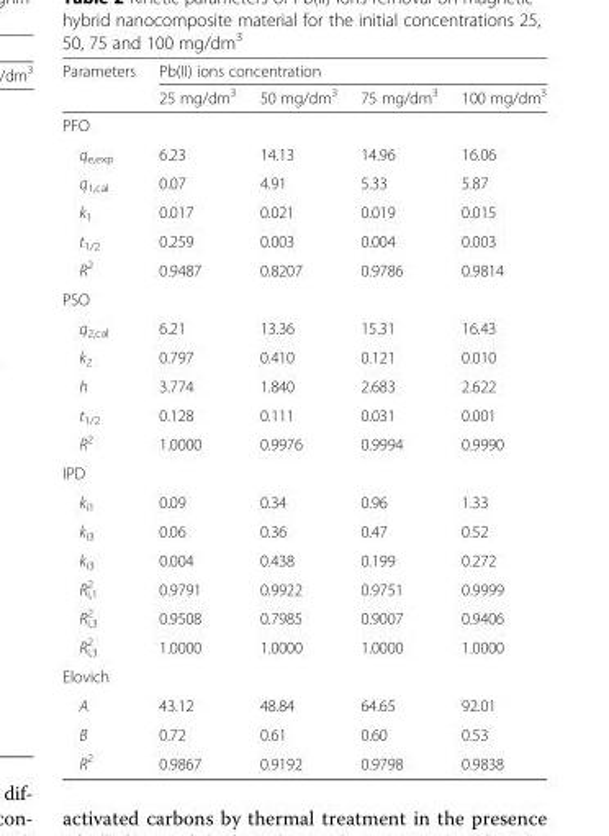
<table><thead><tr><td rowspan="2">Parameters</td><td colspan="4">Pb(II) ions concentration</td></tr><tr><td>25 mg/dm<sup>3</sup></td><td>50 mg/dm<sup>3</sup></td><td>75 mg/dm<sup>3</sup></td><td>100 mg/dm<sup>3</sup></td></tr></thead><tbody><tr><td colspan="5">PFO</td></tr><tr><td>q<sub>e,exp</sub></td><td>6.23</td><td>14.13</td><td>14.96</td><td>16.06</td></tr><tr><td>q<sub>1,cal</sub></td><td>0.07</td><td>4.91</td><td>5.33</td><td>5.87</td></tr><tr><td>k<sub>1</sub></td><td>0.017</td><td>0.021</td><td>0.019</td><td>0.015</td></tr><tr><td>t<sub>1/2</sub></td><td>0.259</td><td>0.003</td><td>0.004</td><td>0.003</td></tr><tr><td>R<sup>2</sup></td><td>0.9487</td><td>0.8207</td><td>0.9786</td><td>0.9814</td></tr><tr><td colspan="5">PSO</td></tr><tr><td>q<sub>2,cal</sub></td><td>6.21</td><td>13.36</td><td>15.31</td><td>16.43</td></tr><tr><td>k<sub>2</sub></td><td>0.797</td><td>0.410</td><td>0.121</td><td>0.010</td></tr><tr><td>h</td><td>3.774</td><td>1.840</td><td>2.683</td><td>2.622</td></tr><tr><td>t<sub>1/2</sub></td><td>0.128</td><td>0.111</td><td>0.031</td><td>0.001</td></tr><tr><td>R<sup>2</sup></td><td>1.0000</td><td>0.9976</td><td>0.9994</td><td>0.9990</td></tr><tr><td colspan="5">IPD</td></tr><tr><td>k<sub>i1</sub></td><td>0.09</td><td>0.34</td><td>0.96</td><td>1.33</td></tr><tr><td>k<sub>i3</sub></td><td>0.06</td><td>0.36</td><td>0.47</td><td>0.52</td></tr><tr><td>k<sub>i3</sub></td><td>0.004</td><td>0.438</td><td>0.199</td><td>0.272</td></tr><tr><td>R<sub>i,1</sub> <sup>2</sup></td><td>0.9791</td><td>0.9922</td><td>0.9751</td><td>0.9999</td></tr><tr><td>R<sub>i,3</sub> <sup>2</sup></td><td>0.9508</td><td>0.7985</td><td>0.9007</td><td>0.9406</td></tr><tr><td>R<sub>i,3</sub> <sup>2</sup></td><td>1.0000</td><td>1.0000</td><td>1.0000</td><td>1.0000</td></tr><tr><td colspan="5">Elovich</td></tr><tr><td>A</td><td>43.12</td><td>48.84</td><td>64.65</td><td>92.01</td></tr><tr><td>B</td><td>0.72</td><td>0.61</td><td>0.60</td><td>0.53</td></tr><tr><td>R<sup>2</sup></td><td>0.9867</td><td>0.9192</td><td>0.9798</td><td>0.9838</td></tr></tbody></table>